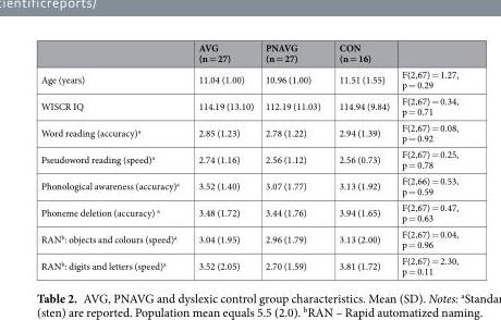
<table><thead><tr><td></td><td>AVG (n = 27)</td><td>PNAVG (n = 27)</td><td>CON (n = 16)</td><td></td></tr></thead><tbody><tr><td>Age (years)</td><td>11.04 (1.00)</td><td>10.96 (1.00)</td><td>11.51 (1.55)</td><td>F(2,67) = 1.27, p = 0.29</td></tr><tr><td>WISCR IQ</td><td>114.19 (13.10)</td><td>112.19 (11.03)</td><td>114.94 (9.84)</td><td>F(2,67) = 0.34, p = 0.71</td></tr><tr><td>Word reading (accuracy)<sup>a</sup></td><td>2.85 (1.23)</td><td>2.78 (1.22)</td><td>2.94 (1.39)</td><td>F(2,67) = 0.08, p = 0.92</td></tr><tr><td>Pseudoword reading (speed)<sup>a</sup></td><td>2.74 (1.16)</td><td>2.56 (1.12)</td><td>2.56 (0.73)</td><td>F(2,67) = 0.25, p = 0.78</td></tr><tr><td>Phonological awareness (accuracy)<sup>a</sup></td><td>3.52 (1.40)</td><td>3.07 (1.77)</td><td>3.13 (1.92)</td><td>F(2,66) = 0.53, p = 0.59</td></tr><tr><td>Phoneme deletion (accuracy) <sup>a</sup></td><td>3.48 (1.72)</td><td>3.44 (1.76)</td><td>3.94 (1.65)</td><td>F(2,67) = 0.47, p = 0.63</td></tr><tr><td>RAN<sup>b</sup>: objects and colours (speed)<sup>a</sup></td><td>3.04 (1.95)</td><td>2.96 (1.79)</td><td>3.13 (2.00)</td><td>F(2,67) = 0.04, p = 0.96</td></tr><tr><td>RAN<sup>b</sup>: digits and letters (speed)<sup>a</sup></td><td>3.52 (2.05)</td><td>2.70 (1.59)</td><td>3.81 (1.72)</td><td>F(2,67) = 2.30, p = 0.11</td></tr></tbody></table>